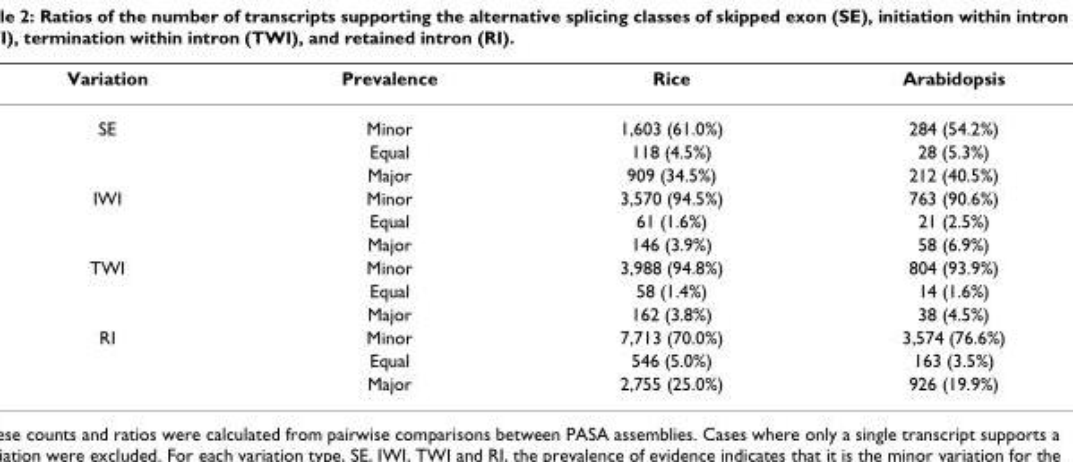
<table><thead><tr><td>Variation</td><td>Prevalence</td><td>Rice</td><td>Arabidopsis</td></tr></thead><tbody><tr><td rowspan="3">SE</td><td>Minor</td><td>1,603 (61.0%)</td><td>284 (54.2%)</td></tr><tr><td>Equal</td><td>118 (4.5%)</td><td>28 (5.3%)</td></tr><tr><td>Major</td><td>909 (34.5%)</td><td>212 (40.5%)</td></tr><tr><td rowspan="3">IWI</td><td>Minor</td><td>3,570 (94.5%)</td><td>763 (90.6%)</td></tr><tr><td>Equal</td><td>61 (1.6%)</td><td>21 (2.5%)</td></tr><tr><td>Major</td><td>146 (3.9%)</td><td>58 (6.9%)</td></tr><tr><td rowspan="3">TWI</td><td>Minor</td><td>3,988 (94.8%)</td><td>804 (93.9%)</td></tr><tr><td>Equal</td><td>58 (1.4%)</td><td>14 (1.6%)</td></tr><tr><td>Major</td><td>162 (3.8%)</td><td>38 (4.5%)</td></tr><tr><td rowspan="3">RI</td><td>Minor</td><td>7,713 (70.0%)</td><td>3,574 (76.6%)</td></tr><tr><td>Equal</td><td>546 (5.0%)</td><td>163 (3.5%)</td></tr><tr><td>Major</td><td>2,755 (25.0%)</td><td>926 (19.9%)</td></tr></tbody></table>